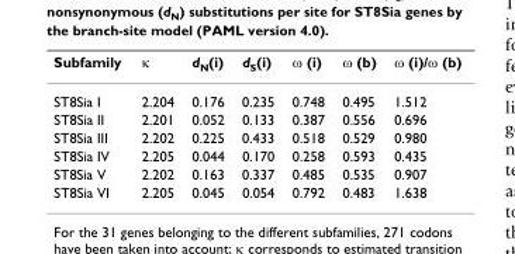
<table><thead><tr><td>Subfamily</td><td>κ</td><td>d<sub>N</sub>(i)</td><td>d<sub>S</sub>(i)</td><td>ω (i)</td><td>ω (b)</td><td>ω (i)/ω (b)</td></tr></thead><tbody><tr><td>ST8Sia I</td><td>2.204</td><td>0.176</td><td>0.235</td><td>0.748</td><td>0.495</td><td>1.512</td></tr><tr><td>ST8Sia II</td><td>2.201</td><td>0.052</td><td>0.133</td><td>0.387</td><td>0.556</td><td>0.696</td></tr><tr><td>ST8Sia III</td><td>2.202</td><td>0.225</td><td>0.433</td><td>0.518</td><td>0.529</td><td>0.980</td></tr><tr><td>ST8Sia IV</td><td>2.205</td><td>0.044</td><td>0.170</td><td>0.258</td><td>0.593</td><td>0.435</td></tr><tr><td>ST8Sia V</td><td>2.202</td><td>0.163</td><td>0.337</td><td>0.485</td><td>0.535</td><td>0.907</td></tr><tr><td>ST8Sia VI</td><td>2.205</td><td>0.045</td><td>0.054</td><td>0.792</td><td>0.483</td><td>1.638</td></tr></tbody></table>